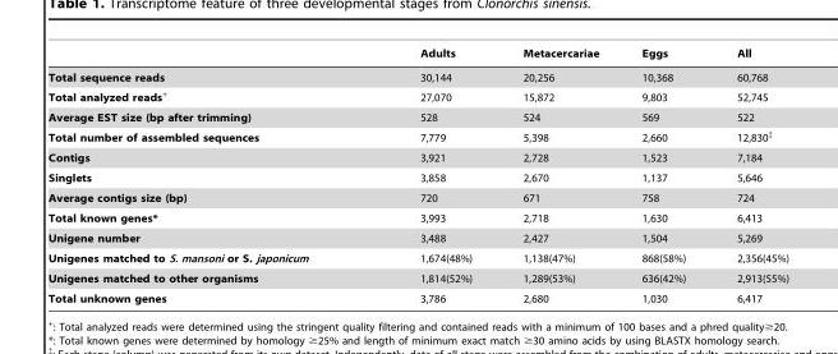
<table><thead><tr><td></td><td>Adults</td><td>Metacercariae</td><td>Eggs</td><td>All</td></tr></thead><tbody><tr><td>Total sequence reads</td><td>30,144</td><td>20,256</td><td>10,368</td><td>60,768</td></tr><tr><td>Total analyzed reads+</td><td>27,070</td><td>15,872</td><td>9,803</td><td>52,745</td></tr><tr><td>Average EST size (bp after trimming)</td><td>528</td><td>524</td><td>569</td><td>522</td></tr><tr><td>Total number of assembled sequences</td><td>7,779</td><td>5,398</td><td>2,660</td><td>12,830‡</td></tr><tr><td>Contigs</td><td>3,921</td><td>2,728</td><td>1,523</td><td>7,184</td></tr><tr><td>Singlets</td><td>3,858</td><td>2,670</td><td>1,137</td><td>5,646</td></tr><tr><td>Average contigs size (bp)</td><td>720</td><td>671</td><td>758</td><td>724</td></tr><tr><td>Total known genes*</td><td>3,993</td><td>2,718</td><td>1,630</td><td>6,413</td></tr><tr><td>Unigene number</td><td>3,488</td><td>2,427</td><td>1,504</td><td>5,269</td></tr><tr><td>Unigenes matched to S. mansoni or S. japonicum</td><td>1,674(48%)</td><td>1,138(47%)</td><td>868(58%)</td><td>2,356(45%)</td></tr><tr><td>Unigenes matched to other organisms</td><td>1,814(52%)</td><td>1,289(53%)</td><td>636(42%)</td><td>2,913(55%)</td></tr><tr><td>Total unknown genes</td><td>3,786</td><td>2,680</td><td>1,030</td><td>6,417</td></tr></tbody></table>